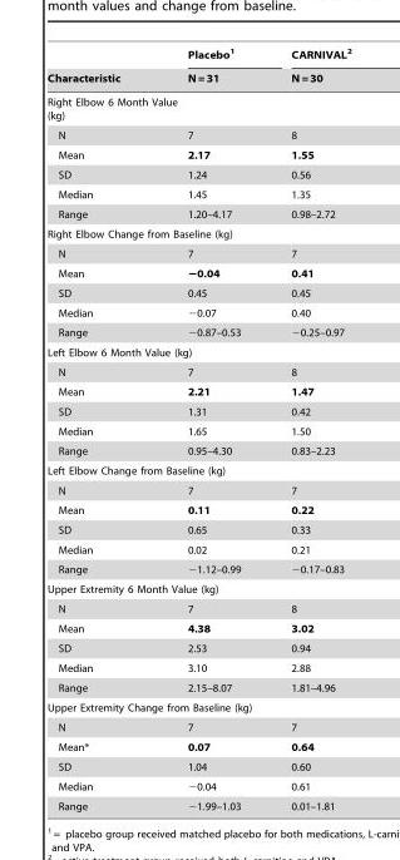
<table><thead><tr><td rowspan="2">Characteristic</td><td rowspan="2">Placebo<sup>1</sup> N = 31</td><td rowspan="2">CARNIVAL<sup>2</sup> N = 30</td></tr><tr></tr></thead><tbody><tr><td colspan="3">Right Elbow 6 Month Value (kg)</td></tr><tr><td>N</td><td>7</td><td>8</td></tr><tr><td>Mean</td><td>2.17</td><td>1.55</td></tr><tr><td>SD</td><td>1.24</td><td>0.56</td></tr><tr><td>Median</td><td>1.45</td><td>1.35</td></tr><tr><td>Range</td><td>1.20–4.17</td><td>0.98–2.72</td></tr><tr><td colspan="3">Right Elbow Change from Baseline (kg)</td></tr><tr><td>N</td><td>7</td><td>7</td></tr><tr><td>Mean</td><td>−0.04</td><td>0.41</td></tr><tr><td>SD</td><td>0.45</td><td>0.45</td></tr><tr><td>Median</td><td>−0.07</td><td>0.40</td></tr><tr><td>Range</td><td>−0.87–0.53</td><td>−0.25–0.97</td></tr><tr><td colspan="3">Left Elbow 6 Month Value (kg)</td></tr><tr><td>N</td><td>7</td><td>8</td></tr><tr><td>Mean</td><td>2.21</td><td>1.47</td></tr><tr><td>SD</td><td>1.31</td><td>0.42</td></tr><tr><td>Median</td><td>1.65</td><td>1.50</td></tr><tr><td>Range</td><td>0.95–4.30</td><td>0.83–2.23</td></tr><tr><td colspan="3">Left Elbow Change from Baseline (kg)</td></tr><tr><td>N</td><td>7</td><td>7</td></tr><tr><td>Mean</td><td>0.11</td><td>0.22</td></tr><tr><td>SD</td><td>0.65</td><td>0.33</td></tr><tr><td>Median</td><td>0.02</td><td>0.21</td></tr><tr><td>Range</td><td>−1.12–0.99</td><td>−0.17–0.83</td></tr><tr><td colspan="3">Upper Extremity 6 Month Value (kg)</td></tr><tr><td>N</td><td>7</td><td>8</td></tr><tr><td>Mean</td><td>4.38</td><td>3.02</td></tr><tr><td>SD</td><td>2.53</td><td>0.94</td></tr><tr><td>Median</td><td>3.10</td><td>2.88</td></tr><tr><td>Range</td><td>2.15–8.07</td><td>1.81–4.96</td></tr><tr><td colspan="3">Upper Extremity Change from Baseline (kg)</td></tr><tr><td>N</td><td>7</td><td>7</td></tr><tr><td>Mean*</td><td>0.07</td><td>0.64</td></tr><tr><td>SD</td><td>1.04</td><td>0.60</td></tr><tr><td>Median</td><td>−0.04</td><td>0.61</td></tr><tr><td>Range</td><td>−1.99–1.03</td><td>0.01–1.81</td></tr></tbody></table>